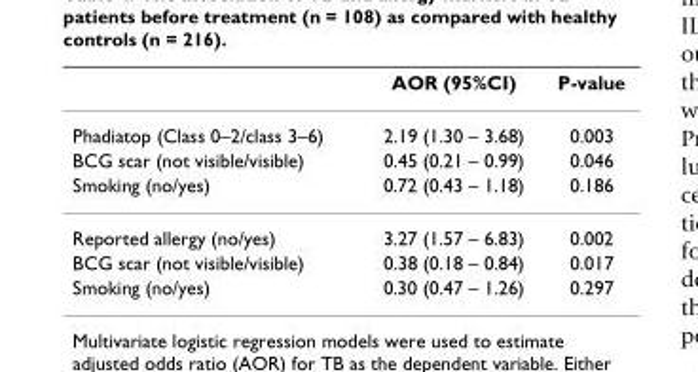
<table><thead><tr><td></td><td>AOR (95%CI)</td><td>P-value</td></tr></thead><tbody><tr><td>Phadiatop (Class 0–2/class 3–6)</td><td>2.19 (1.30 – 3.68)</td><td>0.003</td></tr><tr><td>BCG scar (not visible/visible)</td><td>0.45 (0.21 – 0.99)</td><td>0.046</td></tr><tr><td>Smoking (no/yes)</td><td>0.72 (0.43 – 1.18)</td><td>0.186</td></tr><tr><td>Reported allergy (no/yes)</td><td>3.27 (1.57 – 6.83)</td><td>0.002</td></tr><tr><td>BCG scar (not visible/visible)</td><td>0.38 (0.18 – 0.84)</td><td>0.017</td></tr><tr><td>Smoking (no/yes)</td><td>0.30 (0.47 – 1.26)</td><td>0.297</td></tr></tbody></table>